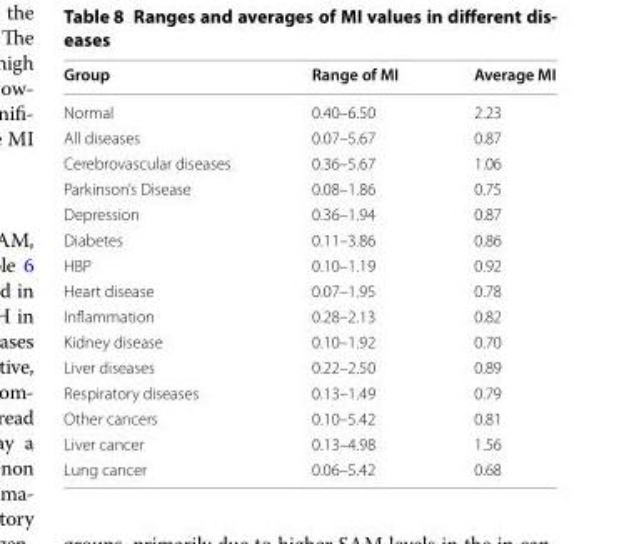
<table><thead><tr><td>Group</td><td>Range of MI</td><td>Average MI</td></tr></thead><tbody><tr><td>Normal</td><td>0.40–6.50</td><td>2.23</td></tr><tr><td>All diseases</td><td>0.07–5.67</td><td>0.87</td></tr><tr><td>Cerebrovascular diseases</td><td>0.36–5.67</td><td>1.06</td></tr><tr><td>Parkinson’s Disease</td><td>0.08–1.86</td><td>0.75</td></tr><tr><td>Depression</td><td>0.36–1.94</td><td>0.87</td></tr><tr><td>Diabetes</td><td>0.11–3.86</td><td>0.86</td></tr><tr><td>HBP</td><td>0.10–1.19</td><td>0.92</td></tr><tr><td>Heart disease</td><td>0.07–1.95</td><td>0.78</td></tr><tr><td>Inflammation</td><td>0.28–2.13</td><td>0.82</td></tr><tr><td>Kidney disease</td><td>0.10–1.92</td><td>0.70</td></tr><tr><td>Liver diseases</td><td>0.22–2.50</td><td>0.89</td></tr><tr><td>Respiratory diseases</td><td>0.13–1.49</td><td>0.79</td></tr><tr><td>Other cancers</td><td>0.10–5.42</td><td>0.81</td></tr><tr><td>Liver cancer</td><td>0.13–4.98</td><td>1.56</td></tr><tr><td>Lung cancer</td><td>0.06–5.42</td><td>0.68</td></tr></tbody></table>